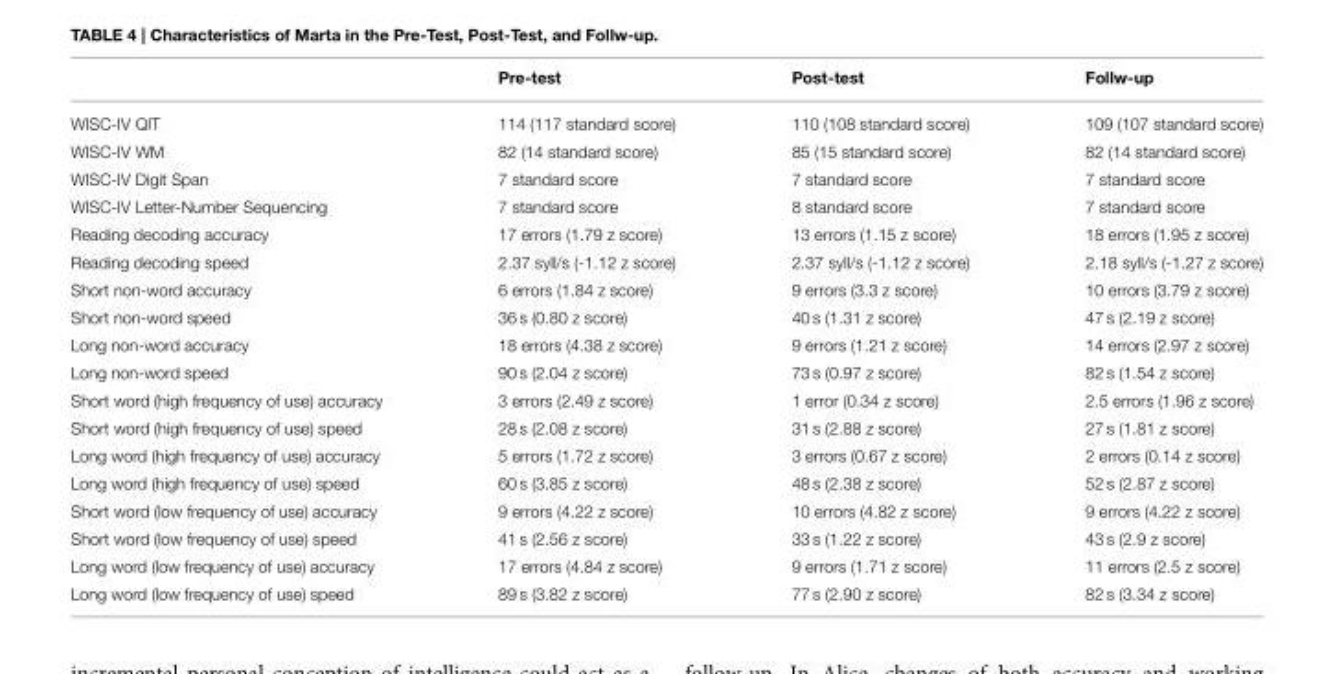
<table><thead><tr><td></td><td>Pre-test</td><td>Post-test</td><td>Follw-up</td></tr></thead><tbody><tr><td>WISC-IV QIT</td><td>114 (117 standard score)</td><td>110 (108 standard score)</td><td>109 (107 standard score)</td></tr><tr><td>WISC-IV WM</td><td>82 (14 standard score)</td><td>85 (15 standard score)</td><td>82 (14 standard score)</td></tr><tr><td>WISC-IV Digit Span</td><td>7 standard score</td><td>7 standard score</td><td>7 standard score</td></tr><tr><td>WISC-IV Letter-Number Sequencing</td><td>7 standard score</td><td>8 standard score</td><td>7 standard score</td></tr><tr><td>Reading decoding accuracy</td><td>17 errors (1.79 z score)</td><td>13 errors (1.15 z score)</td><td>18 errors (1.95 z score)</td></tr><tr><td>Reading decoding speed</td><td>2.37 syll/s (-1.12 z score)</td><td>2.37 syll/s (-1.12 z score)</td><td>2.18 syll/s (-1.27 z score)</td></tr><tr><td>Short non-word accuracy</td><td>6 errors (1.84 z score)</td><td>9 errors (3.3 z score)</td><td>10 errors (3.79 z score)</td></tr><tr><td>Short non-word speed</td><td>36 s (0.80 z score)</td><td>40 s (1.31 z score)</td><td>47 s (2.19 z score)</td></tr><tr><td>Long non-word accuracy</td><td>18 errors (4.38 z score)</td><td>9 errors (1.21 z score)</td><td>14 errors (2.97 z score)</td></tr><tr><td>Long non-word speed</td><td>90 s (2.04 z score)</td><td>73 s (0.97 z score)</td><td>82 s (1.54 z score)</td></tr><tr><td>Short word (high frequency of use) accuracy</td><td>3 errors (2.49 z score)</td><td>1 error (0.34 z score)</td><td>2.5 errors (1.96 z score)</td></tr><tr><td>Short word (high frequency of use) speed</td><td>28 s (2.08 z score)</td><td>31 s (2.88 z score)</td><td>27 s (1.81 z score)</td></tr><tr><td>Long word (high frequency of use) accuracy</td><td>5 errors (1.72 z score)</td><td>3 errors (0.67 z score)</td><td>2 errors (0.14 z score)</td></tr><tr><td>Long word (high frequency of use) speed</td><td>60 s (3.85 z score)</td><td>48 s (2.38 z score)</td><td>52 s (2.87 z score)</td></tr><tr><td>Short word (low frequency of use) accuracy</td><td>9 errors (4.22 z score)</td><td>10 errors (4.82 z score)</td><td>9 errors (4.22 z score)</td></tr><tr><td>Short word (low frequency of use) speed</td><td>41 s (2.56 z score)</td><td>33 s (1.22 z score)</td><td>43 s (2.9 z score)</td></tr><tr><td>Long word (low frequency of use) accuracy</td><td>17 errors (4.84 z score)</td><td>9 errors (1.71 z score)</td><td>11 errors (2.5 z score)</td></tr><tr><td>Long word (low frequency of use) speed</td><td>89 s (3.82 z score)</td><td>77 s (2.90 z score)</td><td>82 s (3.34 z score)</td></tr></tbody></table>